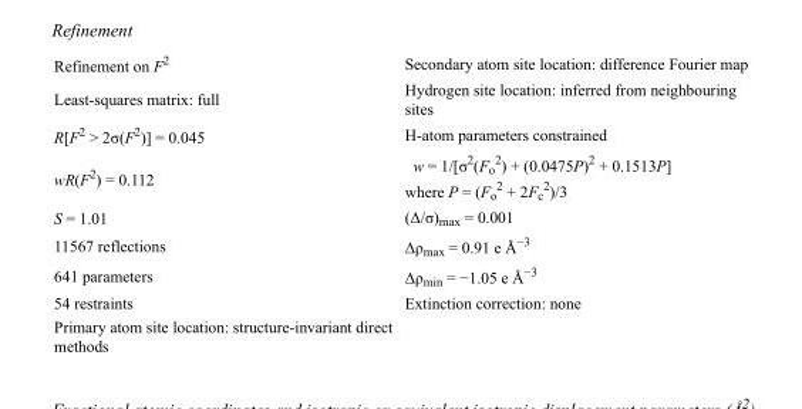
<table><tbody><tr><td>Refinement on F<sup>2</sup></td><td>Secondary atom site location: difference Fourier map</td></tr><tr><td>Least-squares matrix: full</td><td>Hydrogen site location: inferred from neighbouring sites</td></tr><tr><td>R[F<sup>2</sup> &gt; 2σ(F<sup>2</sup>)] = 0.045</td><td>H-atom parameters constrained</td></tr><tr><td>wR(F<sup>2</sup>) = 0.112</td><td>w = 1/[σ<sup>2</sup>(F<sub>o</sub> <sup>2</sup>) + (0.0475P)<sup>2</sup> + 0.1513P] where P = (F<sub>o</sub> <sup>2</sup> + 2F<sub>c</sub> <sup>2</sup>)/3</td></tr><tr><td>S = 1.01</td><td>(Δ/σ)<sub>max</sub> = 0.001</td></tr><tr><td>11567 reflections</td><td>Δρ<sub>max</sub> = 0.91 e Å<sup>−3</sup></td></tr><tr><td>641 parameters</td><td>Δρ<sub>min</sub> = −1.05 e Å<sup>−3</sup></td></tr><tr><td>54 restraints</td><td>Extinction correction: none</td></tr><tr><td>Primary atom site location: structure-invariant direct methods</td><td></td></tr></tbody></table>